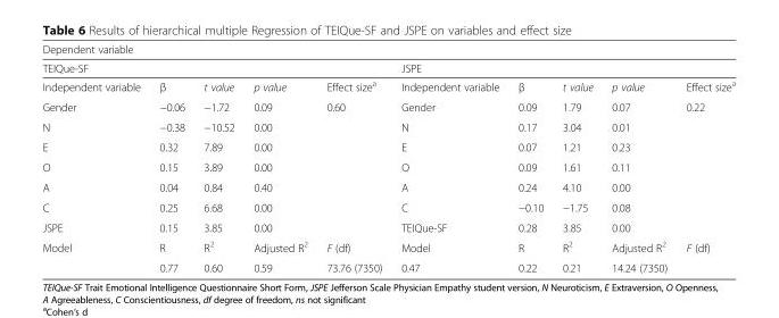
<table><thead><tr><td colspan="10">Dependent variable</td></tr><tr><td colspan="5">TEIQue-SF</td><td colspan="5">JSPE</td></tr><tr><td>Independent variable</td><td>β</td><td>t value</td><td>p value</td><td>Effect size<sup>a</sup></td><td>Independent variable</td><td>β</td><td>t value</td><td>p value</td><td>Effect size<sup>a</sup></td></tr></thead><tbody><tr><td>Gender</td><td>−0.06</td><td>−1.72</td><td>0.09</td><td>0.60</td><td>Gender</td><td>0.09</td><td>1.79</td><td>0.07</td><td>0.22</td></tr><tr><td>N</td><td>−0.38</td><td>−10.52</td><td>0.00</td><td></td><td>N</td><td>0.17</td><td>3.04</td><td>0.01</td><td></td></tr><tr><td>E</td><td>0.32</td><td>7.89</td><td>0.00</td><td></td><td>E</td><td>0.07</td><td>1.21</td><td>0.23</td><td></td></tr><tr><td>O</td><td>0.15</td><td>3.89</td><td>0.00</td><td></td><td>O</td><td>0.09</td><td>1.61</td><td>0.11</td><td></td></tr><tr><td>A</td><td>0.04</td><td>0.84</td><td>0.40</td><td></td><td>A</td><td>0.24</td><td>4.10</td><td>0.00</td><td></td></tr><tr><td>C</td><td>0.25</td><td>6.68</td><td>0.00</td><td></td><td>C</td><td>−0.10</td><td>−1.75</td><td>0.08</td><td></td></tr><tr><td>JSPE</td><td>0.15</td><td>3.85</td><td>0.00</td><td></td><td>TEIQue-SF</td><td>0.28</td><td>3.85</td><td>0.00</td><td></td></tr><tr><td rowspan="2">Model</td><td>R</td><td>R<sup>2</sup></td><td>Adjusted R<sup>2</sup></td><td>F (df)</td><td>Model</td><td>R</td><td>R<sup>2</sup></td><td>Adjusted R<sup>2</sup></td><td>F (df)</td></tr><tr><td>0.77</td><td>0.60</td><td>0.59</td><td>73.76 (7350)</td><td>0.47</td><td>0.22</td><td>0.21</td><td>14.24 (7350)</td><td></td></tr></tbody></table>